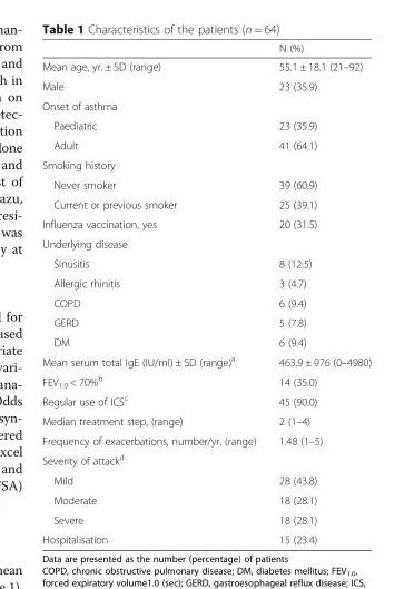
<table><thead><tr><td></td><td>N (%)</td></tr></thead><tbody><tr><td>Mean age, yr. ± SD (range)</td><td>55.1 ± 18.1 (21–92)</td></tr><tr><td>Male</td><td>23 (35.9)</td></tr><tr><td colspan="2">Onset of asthma</td></tr><tr><td>Paediatric</td><td>23 (35.9)</td></tr><tr><td>Adult</td><td>41 (64.1)</td></tr><tr><td colspan="2">Smoking history</td></tr><tr><td>Never smoker</td><td>39 (60.9)</td></tr><tr><td>Current or previous smoker</td><td>25 (39.1)</td></tr><tr><td>Influenza vaccination, yes</td><td>20 (31.5)</td></tr><tr><td colspan="2">Underlying disease</td></tr><tr><td>Sinusitis</td><td>8 (12.5)</td></tr><tr><td>Allergic rhinitis</td><td>3 (4.7)</td></tr><tr><td>COPD</td><td>6 (9.4)</td></tr><tr><td>GERD</td><td>5 (7.8)</td></tr><tr><td>DM</td><td>6 (9.4)</td></tr><tr><td>Mean serum total IgE (IU/ml) ± SD (range)<sup>a</sup></td><td>463.9 ± 976 (0–4980)</td></tr><tr><td>FEV<sub>1.0</sub> &lt; 70%<sup>b</sup></td><td>14 (35.0)</td></tr><tr><td>Regular use of ICS<sup>c</sup></td><td>45 (90.0)</td></tr><tr><td>Median treatment step, (range)</td><td>2 (1–4)</td></tr><tr><td>Frequency of exacerbations, number/yr. (range)</td><td>1.48 (1–5)</td></tr><tr><td colspan="2">Severity of attack<sup>d</sup></td></tr><tr><td>Mild</td><td>28 (43.8)</td></tr><tr><td>Moderate</td><td>18 (28.1)</td></tr><tr><td>Severe</td><td>18 (28.1)</td></tr><tr><td>Hospitalisation</td><td>15 (23.4)</td></tr></tbody></table>